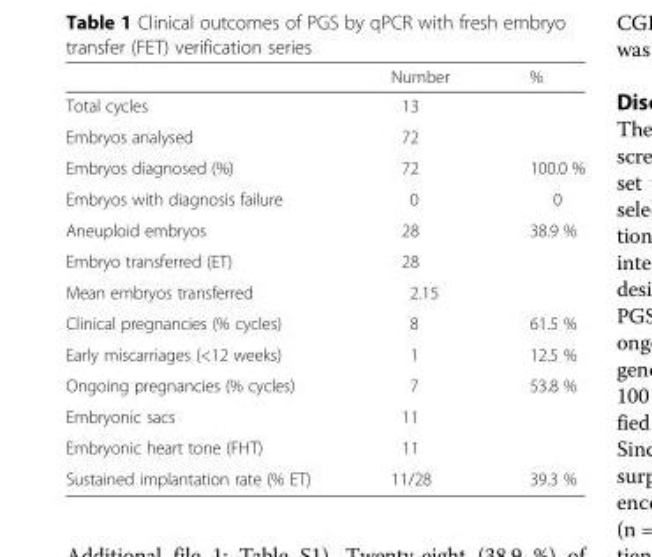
<table><thead><tr><td></td><td>Number</td><td>%</td></tr></thead><tbody><tr><td>Total cycles</td><td>13</td><td></td></tr><tr><td>Embryos analysed</td><td>72</td><td></td></tr><tr><td>Embryos diagnosed (%)</td><td>72</td><td>100.0 %</td></tr><tr><td>Embryos with diagnosis failure</td><td>0</td><td>0</td></tr><tr><td>Aneuploid embryos</td><td>28</td><td>38.9 %</td></tr><tr><td>Embryo transferred (ET)</td><td>28</td><td></td></tr><tr><td>Mean embryos transferred</td><td>2.15</td><td></td></tr><tr><td>Clinical pregnancies (% cycles)</td><td>8</td><td>61.5 %</td></tr><tr><td>Early miscarriages (&lt;12 weeks)</td><td>1</td><td>12.5 %</td></tr><tr><td>Ongoing pregnancies (% cycles)</td><td>7</td><td>53.8 %</td></tr><tr><td>Embryonic sacs</td><td>11</td><td></td></tr><tr><td>Embryonic heart tone (FHT)</td><td>11</td><td></td></tr><tr><td>Sustained implantation rate (% ET)</td><td>11/28</td><td>39.3 %</td></tr></tbody></table>